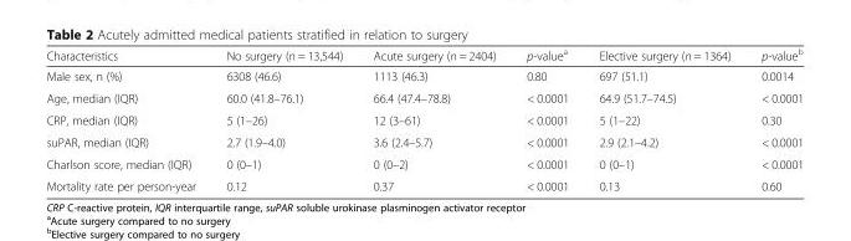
<table><thead><tr><td>Characteristics</td><td>No surgery (n = 13,544)</td><td>Acute surgery (n = 2404)</td><td>p-value<sup>a</sup></td><td>Elective surgery (n = 1364)</td><td>p-value<sup>b</sup></td></tr></thead><tbody><tr><td>Male sex, n (%)</td><td>6308 (46.6)</td><td>1113 (46.3)</td><td>0.80</td><td>697 (51.1)</td><td>0.0014</td></tr><tr><td>Age, median (IQR)</td><td>60.0 (41.8–76.1)</td><td>66.4 (47.4–78.8)</td><td>&lt; 0.0001</td><td>64.9 (51.7–74.5)</td><td>&lt; 0.0001</td></tr><tr><td>CRP, median (IQR)</td><td>5 (1–26)</td><td>12 (3–61)</td><td>&lt; 0.0001</td><td>5 (1–22)</td><td>0.30</td></tr><tr><td>suPAR, median (IQR)</td><td>2.7 (1.9–4.0)</td><td>3.6 (2.4–5.7)</td><td>&lt; 0.0001</td><td>2.9 (2.1–4.2)</td><td>&lt; 0.0001</td></tr><tr><td>Charlson score, median (IQR)</td><td>0 (0–1)</td><td>0 (0–2)</td><td>&lt; 0.0001</td><td>0 (0–1)</td><td>&lt; 0.0001</td></tr><tr><td>Mortality rate per person-year</td><td>0.12</td><td>0.37</td><td>&lt; 0.0001</td><td>0.13</td><td>0.60</td></tr></tbody></table>